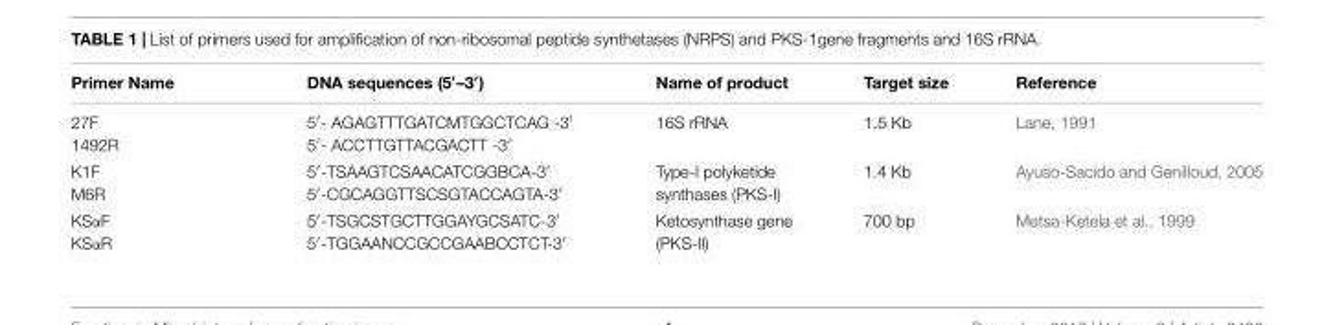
<table><thead><tr><td>Primer Name</td><td>DNA sequences (5′–3′)</td><td>Name of product</td><td>Target size</td><td>Reference</td></tr></thead><tbody><tr><td>27F 1492R</td><td>5′- AGAGTTTGATCMTGGCTCAG -3′ 5′- ACCTTGTTACGACTT -3′</td><td>16S rRNA</td><td>1.5 Kb</td><td>Lane, 1991</td></tr><tr><td>K1F M6R</td><td>5′-TSAAGTCSAACATCGGBCA-3′ 5′-CGCAGGTTSCSGTACCAGTA-3′</td><td>Type-I polyketide synthases (PKS-I)</td><td>1.4 Kb</td><td>Ayuso-Sacido and Genilloud, 2005</td></tr><tr><td>KSαF KSαR</td><td>5′-TSGCSTGCTTGGAYGCSATC-3′ 5′-TGGAANCCGCCGAABCCTCT-3′</td><td>Ketosynthase gene (PKS-II)</td><td>700 bp</td><td>Metsa-Ketela et al., 1999</td></tr></tbody></table>